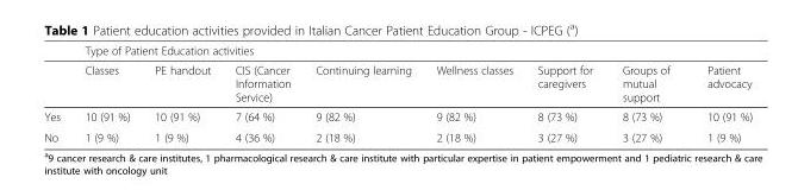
<table><thead><tr><td rowspan="2"></td><td colspan="8">Type of Patient Education activities</td></tr><tr><td>Classes</td><td>PE handout</td><td>CIS (Cancer Information Service)</td><td>Continuing learning</td><td>Wellness classes</td><td>Support for caregivers</td><td>Groups of mutual support</td><td>Patient advocacy</td></tr></thead><tbody><tr><td>Yes</td><td>10 (91 %)</td><td>10 (91 %)</td><td>7 (64 %)</td><td>9 (82 %)</td><td>9 (82 %)</td><td>8 (73 %)</td><td>8 (73 %)</td><td>10 (91 %)</td></tr><tr><td>No</td><td>1 (9 %)</td><td>1 (9 %)</td><td>4 (36 %)</td><td>2 (18 %)</td><td>2 (18 %)</td><td>3 (27 %)</td><td>3 (27 %)</td><td>1 (9 %)</td></tr></tbody></table>